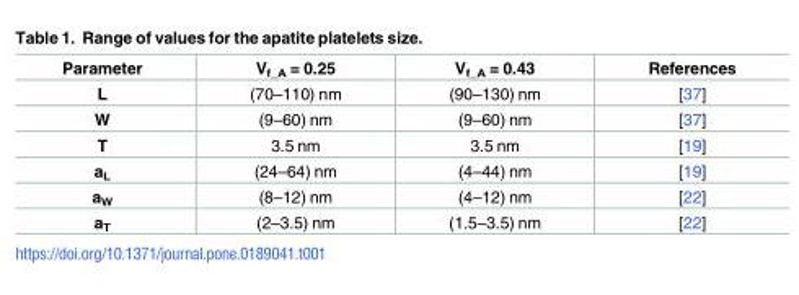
<table><thead><tr><td>Parameter</td><td>V<sub>f_A</sub> = 0.25</td><td>V<sub>f_A</sub> = 0.43</td><td>References</td></tr></thead><tbody><tr><td>L</td><td>(70–110) nm</td><td>(90–130) nm</td><td>[37]</td></tr><tr><td>W</td><td>(9–60) nm</td><td>(9–60) nm</td><td>[37]</td></tr><tr><td>T</td><td>3.5 nm</td><td>3.5 nm</td><td>[19]</td></tr><tr><td>a<sub>L</sub></td><td>(24–64) nm</td><td>(4–44) nm</td><td>[19]</td></tr><tr><td>a<sub>W</sub></td><td>(8–12) nm</td><td>(4–12) nm</td><td>[22]</td></tr><tr><td>a<sub>T</sub></td><td>(2–3.5) nm</td><td>(1.5–3.5) nm</td><td>[22]</td></tr></tbody></table>